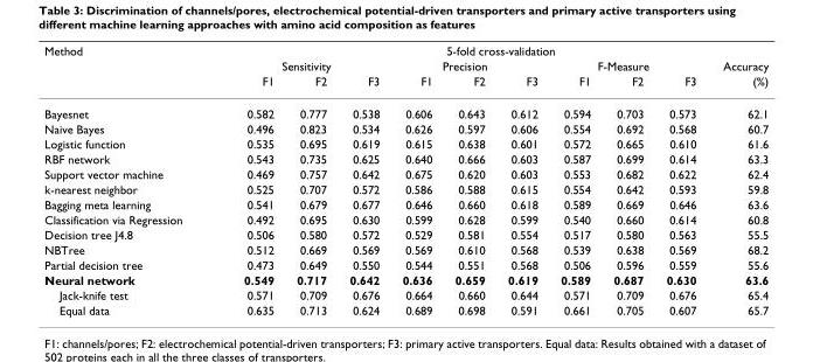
<table><thead><tr><td rowspan="3">Method</td><td colspan="10">5-fold cross-validation</td></tr><tr><td colspan="3">Sensitivity</td><td colspan="3">Precision</td><td colspan="3">F-Measure</td><td rowspan="2">Accuracy (%)</td></tr><tr><td>F1</td><td>F2</td><td>F3</td><td>F1</td><td>F2</td><td>F3</td><td>F1</td><td>F2</td><td>F3</td></tr></thead><tbody><tr><td>Bayesnet</td><td>0.582</td><td>0.777</td><td>0.538</td><td>0.606</td><td>0.643</td><td>0.612</td><td>0.594</td><td>0.703</td><td>0.573</td><td>62.1</td></tr><tr><td>Naive Bayes</td><td>0.496</td><td>0.823</td><td>0.534</td><td>0.626</td><td>0.597</td><td>0.606</td><td>0.554</td><td>0.692</td><td>0.568</td><td>60.7</td></tr><tr><td>Logistic function</td><td>0.535</td><td>0.695</td><td>0.619</td><td>0.615</td><td>0.638</td><td>0.601</td><td>0.572</td><td>0.665</td><td>0.610</td><td>61.6</td></tr><tr><td>RBF network</td><td>0.543</td><td>0.735</td><td>0.625</td><td>0.640</td><td>0.666</td><td>0.603</td><td>0.587</td><td>0.699</td><td>0.614</td><td>63.3</td></tr><tr><td>Support vector machine</td><td>0.469</td><td>0.757</td><td>0.642</td><td>0.675</td><td>0.620</td><td>0.603</td><td>0.553</td><td>0.682</td><td>0.622</td><td>62.4</td></tr><tr><td>k-nearest neighbor</td><td>0.525</td><td>0.707</td><td>0.572</td><td>0.586</td><td>0.588</td><td>0.615</td><td>0.554</td><td>0.642</td><td>0.593</td><td>59.8</td></tr><tr><td>Bagging meta learning</td><td>0.541</td><td>0.679</td><td>0.677</td><td>0.646</td><td>0.660</td><td>0.618</td><td>0.589</td><td>0.669</td><td>0.646</td><td>63.6</td></tr><tr><td>Classification via Regression</td><td>0.492</td><td>0.695</td><td>0.630</td><td>0.599</td><td>0.628</td><td>0.599</td><td>0.540</td><td>0.660</td><td>0.614</td><td>60.8</td></tr><tr><td>Decision tree J4.8</td><td>0.506</td><td>0.580</td><td>0.572</td><td>0.529</td><td>0.581</td><td>0.554</td><td>0.517</td><td>0.580</td><td>0.563</td><td>55.5</td></tr><tr><td>NBTree</td><td>0.512</td><td>0.669</td><td>0.569</td><td>0.569</td><td>0.610</td><td>0.568</td><td>0.539</td><td>0.638</td><td>0.569</td><td>68.2</td></tr><tr><td>Partial decision tree</td><td>0.473</td><td>0.649</td><td>0.550</td><td>0.544</td><td>0.551</td><td>0.568</td><td>0.506</td><td>0.596</td><td>0.559</td><td>55.6</td></tr><tr><td>Neural network</td><td>0.549</td><td>0.717</td><td>0.642</td><td>0.636</td><td>0.659</td><td>0.619</td><td>0.589</td><td>0.687</td><td>0.630</td><td>63.6</td></tr><tr><td>Jack-knife test</td><td>0.571</td><td>0.709</td><td>0.676</td><td>0.664</td><td>0.660</td><td>0.644</td><td>0.571</td><td>0.709</td><td>0.676</td><td>65.4</td></tr><tr><td>Equal data</td><td>0.635</td><td>0.713</td><td>0.624</td><td>0.689</td><td>0.698</td><td>0.591</td><td>0.661</td><td>0.705</td><td>0.607</td><td>65.7</td></tr></tbody></table>